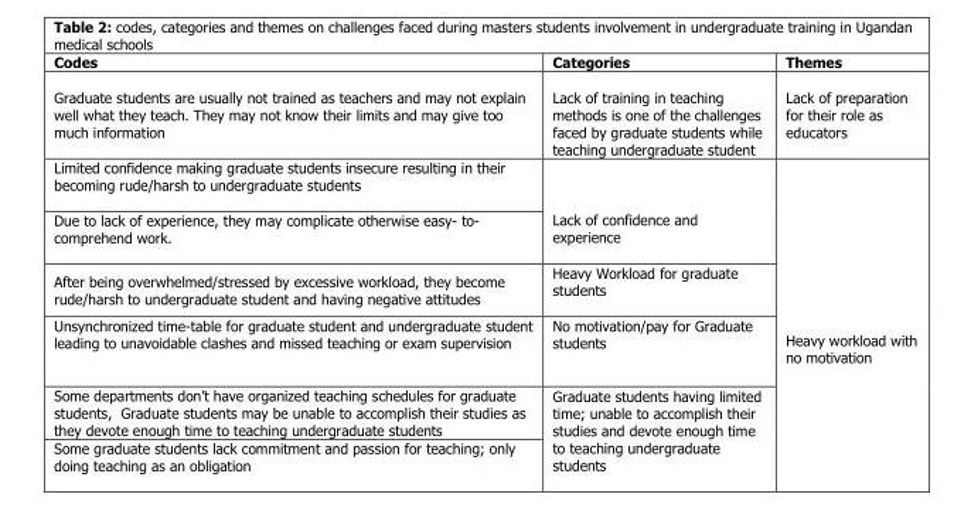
<table><thead><tr><td>Codes</td><td>Categories</td><td>Themes</td></tr></thead><tbody><tr><td>Graduate students are usually not trained as teachers and may not explain well what they teach. They may not know their limits and may give too much information</td><td>Lack of training in teaching methods is one of the challenges faced by graduate students while teaching undergraduate student</td><td>Lack of preparation for their role as educators</td></tr><tr><td>Limited confidence making graduate students insecure resulting in their becoming rude/harsh to undergraduate students</td><td rowspan="2">Lack of confidence and experience</td><td rowspan="6">Heavy workload with no motivation</td></tr><tr><td>Due to lack of experience, they may complicate otherwise easy- to- comprehend work.</td></tr><tr><td>After being overwhelmed/stressed by excessive workload, they become rude/harsh to undergraduate student and having negative attitudes</td><td>Heavy Workload for graduate students</td></tr><tr><td>Unsynchronized time-table for graduate student and undergraduate student leading to unavoidable clashes and missed teaching or exam supervision</td><td>No motivation/pay for Graduate students</td></tr><tr><td>Some departments don’t have organized teaching schedules for graduate students, Graduate students may be unable to accomplish their studies as they devote enough time to teaching undergraduate students</td><td rowspan="2">Graduate students having limited time; unable to accomplish their studies and devote enough time to teaching undergraduate students</td></tr><tr><td>Some graduate students lack commitment and passion for teaching; only doing teaching as an obligation</td></tr></tbody></table>